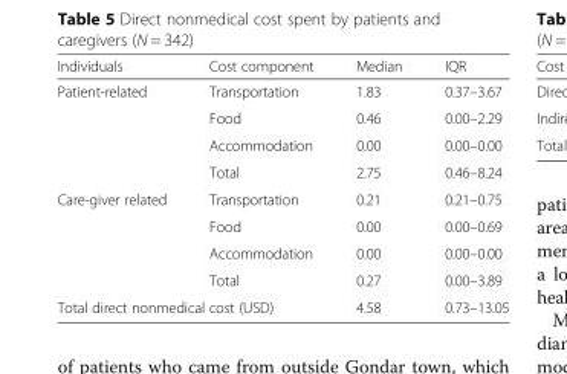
<table><thead><tr><td>Individuals</td><td>Cost component</td><td>Median</td><td>IQR</td></tr></thead><tbody><tr><td rowspan="4">Patient-related</td><td>Transportation</td><td>1.83</td><td>0.37–3.67</td></tr><tr><td>Food</td><td>0.46</td><td>0.00–2.29</td></tr><tr><td>Accommodation</td><td>0.00</td><td>0.00–0.00</td></tr><tr><td>Total</td><td>2.75</td><td>0.46–8.24</td></tr><tr><td rowspan="4">Care-giver related</td><td>Transportation</td><td>0.21</td><td>0.21–0.75</td></tr><tr><td>Food</td><td>0.00</td><td>0.00–0.69</td></tr><tr><td>Accommodation</td><td>0.00</td><td>0.00–0.00</td></tr><tr><td>Total</td><td>0.27</td><td>0.00–3.89</td></tr><tr><td colspan="2">Total direct nonmedical cost (USD)</td><td>4.58</td><td>0.73–13.05</td></tr></tbody></table>